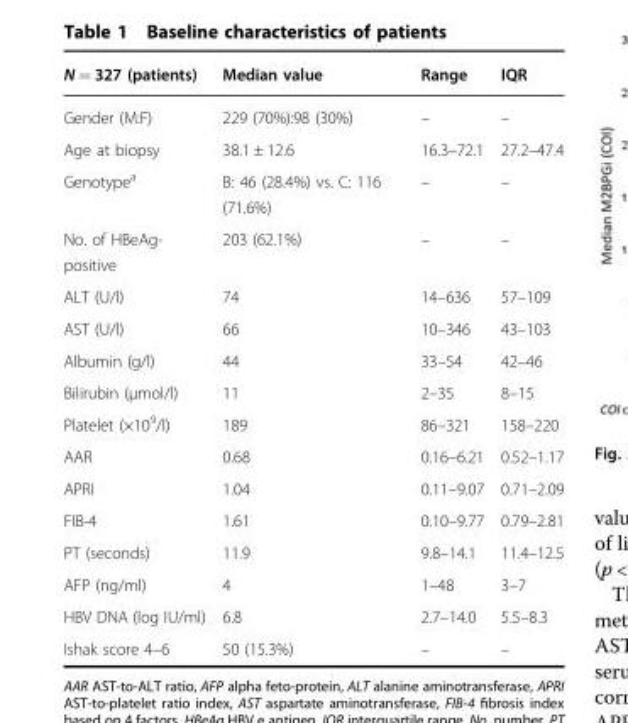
<table><thead><tr><td>N = 327 (patients)</td><td>Median value</td><td>Range</td><td>IQR</td></tr></thead><tbody><tr><td>Gender (M:F)</td><td>229 (70%):98 (30%)</td><td>–</td><td>–</td></tr><tr><td>Age at biopsy</td><td>38.1 ± 12.6</td><td>16.3–72.1</td><td>27.2–47.4</td></tr><tr><td>Genotype<sup>a</sup></td><td>B: 46 (28.4%) vs. C: 116 (71.6%)</td><td>–</td><td>–</td></tr><tr><td>No. of HBeAg- positive</td><td>203 (62.1%)</td><td>–</td><td>–</td></tr><tr><td>ALT (U/l)</td><td>74</td><td>14–636</td><td>57–109</td></tr><tr><td>AST (U/l)</td><td>66</td><td>10–346</td><td>43–103</td></tr><tr><td>Albumin (g/l)</td><td>44</td><td>33–54</td><td>42–46</td></tr><tr><td>Bilirubin (μmol/l)</td><td>11</td><td>2–35</td><td>8–15</td></tr><tr><td>Platelet (×10<sup>9</sup>/l)</td><td>189</td><td>86–321</td><td>158–220</td></tr><tr><td>AAR</td><td>0.68</td><td>0.16–6.21</td><td>0.52–1.17</td></tr><tr><td>APRI</td><td>1.04</td><td>0.11–9.07</td><td>0.71–2.09</td></tr><tr><td>FIB-4</td><td>1.61</td><td>0.10–9.77</td><td>0.79–2.81</td></tr><tr><td>PT (seconds)</td><td>11.9</td><td>9.8–14.1</td><td>11.4–12.5</td></tr><tr><td>AFP (ng/ml)</td><td>4</td><td>1–48</td><td>3–7</td></tr><tr><td>HBV DNA (log IU/ml)</td><td>6.8</td><td>2.7–14.0</td><td>5.5–8.3</td></tr><tr><td>Ishak score 4–6</td><td>50 (15.3%)</td><td>–</td><td>–</td></tr></tbody></table>